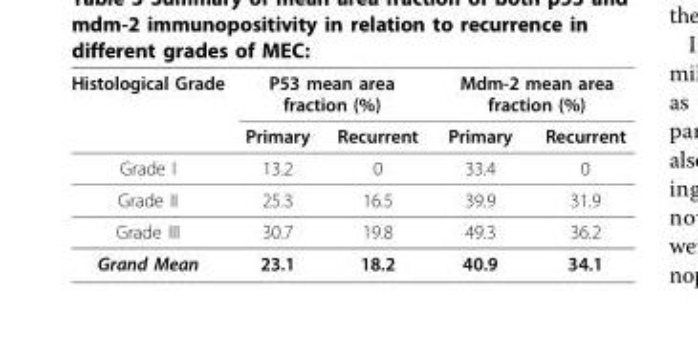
<table><thead><tr><td rowspan="2">Histological Grade</td><td colspan="2">P53 mean area fraction (%)</td><td colspan="2">Mdm-2 mean area fraction (%)</td></tr><tr><td>Primary</td><td>Recurrent</td><td>Primary</td><td>Recurrent</td></tr></thead><tbody><tr><td>Grade I</td><td>13.2</td><td>0</td><td>33.4</td><td>0</td></tr><tr><td>Grade II</td><td>25.3</td><td>16.5</td><td>39.9</td><td>31.9</td></tr><tr><td>Grade III</td><td>30.7</td><td>19.8</td><td>49.3</td><td>36.2</td></tr><tr><td>Grand Mean</td><td>23.1</td><td>18.2</td><td>40.9</td><td>34.1</td></tr></tbody></table>